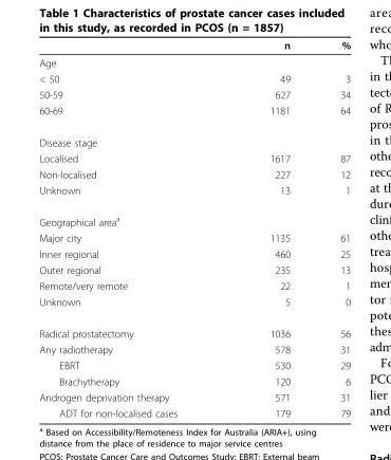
<table><thead><tr><td></td><td>n</td><td>%</td></tr></thead><tbody><tr><td colspan="3">Age</td></tr><tr><td>&lt; 50</td><td>49</td><td>3</td></tr><tr><td>50-59</td><td>627</td><td>34</td></tr><tr><td>60-69</td><td>1181</td><td>64</td></tr><tr><td colspan="3">Disease stage</td></tr><tr><td>Localised</td><td>1617</td><td>87</td></tr><tr><td>Non-localised</td><td>227</td><td>12</td></tr><tr><td>Unknown</td><td>13</td><td>1</td></tr><tr><td colspan="3">Geographical area<sup>a</sup></td></tr><tr><td>Major city</td><td>1135</td><td>61</td></tr><tr><td>Inner regional</td><td>460</td><td>25</td></tr><tr><td>Outer regional</td><td>235</td><td>13</td></tr><tr><td>Remote/very remote</td><td>22</td><td>1</td></tr><tr><td>Unknown</td><td>5</td><td>0</td></tr><tr><td>Radical prostatectomy</td><td>1036</td><td>56</td></tr><tr><td>Any radiotherapy</td><td>578</td><td>31</td></tr><tr><td>EBRT</td><td>530</td><td>29</td></tr><tr><td>Brachytherapy</td><td>120</td><td>6</td></tr><tr><td>Androgen deprivation therapy</td><td>571</td><td>31</td></tr><tr><td>ADT for non-localised cases</td><td>179</td><td>79</td></tr></tbody></table>